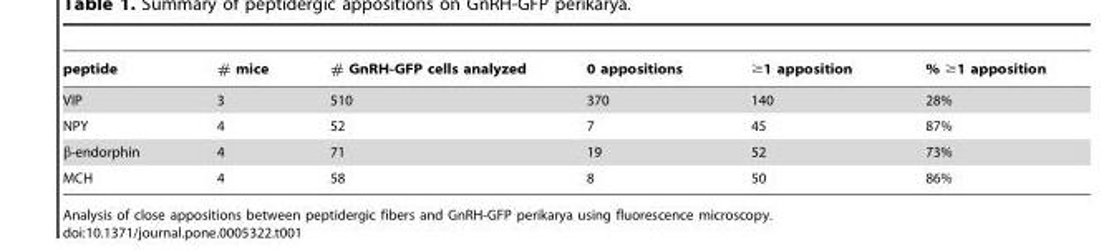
<table><thead><tr><td>peptide</td><td># mice</td><td># GnRH-GFP cells analyzed</td><td>0 appositions</td><td>≥1 apposition</td><td>% ≥1 apposition</td></tr></thead><tbody><tr><td>VIP</td><td>3</td><td>510</td><td>370</td><td>140</td><td>28%</td></tr><tr><td>NPY</td><td>4</td><td>52</td><td>7</td><td>45</td><td>87%</td></tr><tr><td>β-endorphin</td><td>4</td><td>71</td><td>19</td><td>52</td><td>73%</td></tr><tr><td>MCH</td><td>4</td><td>58</td><td>8</td><td>50</td><td>86%</td></tr></tbody></table>